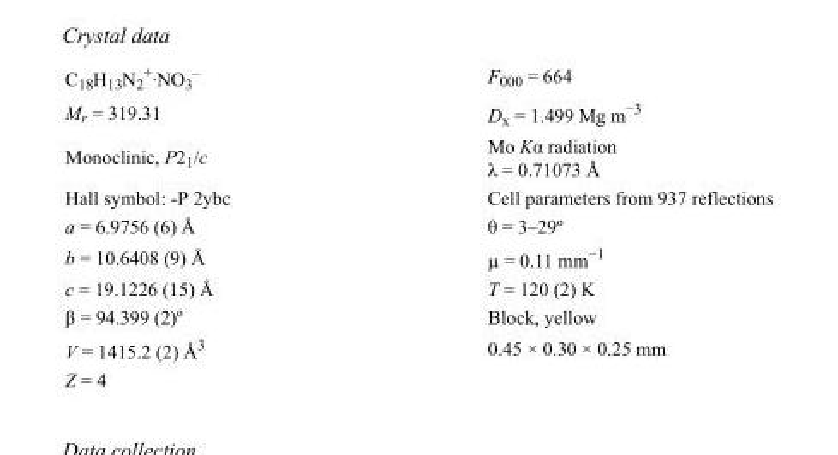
<table><tbody><tr><td>C<sub>18</sub>H<sub>13</sub>N<sub>2</sub> <sup>+</sup>·NO<sub>3</sub> <sup>–</sup></td><td>F<sub>000</sub> = 664</td></tr><tr><td>M<sub>r</sub> = 319.31</td><td>D<sub>x</sub> = 1.499 Mg m<sup>−3</sup></td></tr><tr><td>Monoclinic, P2<sub>1</sub>/c</td><td>Mo Kα radiation λ = 0.71073 Å</td></tr><tr><td>Hall symbol: -P 2ybc</td><td>Cell parameters from 937 reflections</td></tr><tr><td>a = 6.9756 (6) Å</td><td>θ = 3–29º</td></tr><tr><td>b = 10.6408 (9) Å</td><td>µ = 0.11 mm<sup>−1</sup></td></tr><tr><td>c = 19.1226 (15) Å</td><td>T = 120 (2) K</td></tr><tr><td>β = 94.399 (2)º</td><td>Block, yellow</td></tr><tr><td>V = 1415.2 (2) Å<sup>3</sup></td><td>0.45 × 0.30 × 0.25 mm</td></tr><tr><td>Z = 4</td><td></td></tr></tbody></table>